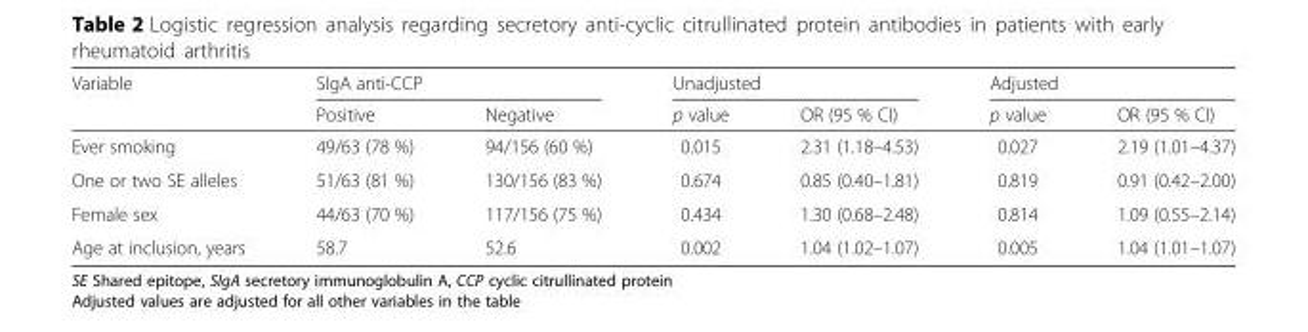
<table><thead><tr><td rowspan="2">Variable</td><td colspan="2">SIgA anti-CCP</td><td colspan="2">Unadjusted</td><td colspan="2">Adjusted</td></tr><tr><td>Positive</td><td>Negative</td><td>p value</td><td>OR (95 % CI)</td><td>p value</td><td>OR (95 % CI)</td></tr></thead><tbody><tr><td>Ever smoking</td><td>49/63 (78 %)</td><td>94/156 (60 %)</td><td>0.015</td><td>2.31 (1.18–4.53)</td><td>0.027</td><td>2.19 (1.01–4.37)</td></tr><tr><td>One or two SE alleles</td><td>51/63 (81 %)</td><td>130/156 (83 %)</td><td>0.674</td><td>0.85 (0.40–1.81)</td><td>0.819</td><td>0.91 (0.42–2.00)</td></tr><tr><td>Female sex</td><td>44/63 (70 %)</td><td>117/156 (75 %)</td><td>0.434</td><td>1.30 (0.68–2.48)</td><td>0.814</td><td>1.09 (0.55–2.14)</td></tr><tr><td>Age at inclusion, years</td><td>58.7</td><td>52.6</td><td>0.002</td><td>1.04 (1.02–1.07)</td><td>0.005</td><td>1.04 (1.01–1.07)</td></tr></tbody></table>